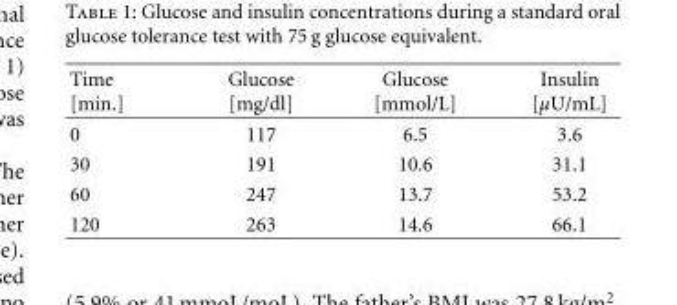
<table><thead><tr><td>Time [min.]</td><td>Glucose [mg/dl]</td><td>Glucose [mmol/L]</td><td>Insulin [μU/mL]</td></tr></thead><tbody><tr><td>0</td><td>117</td><td>6.5</td><td>3.6</td></tr><tr><td>30</td><td>191</td><td>10.6</td><td>31.1</td></tr><tr><td>60</td><td>247</td><td>13.7</td><td>53.2</td></tr><tr><td>120</td><td>263</td><td>14.6</td><td>66.1</td></tr></tbody></table>